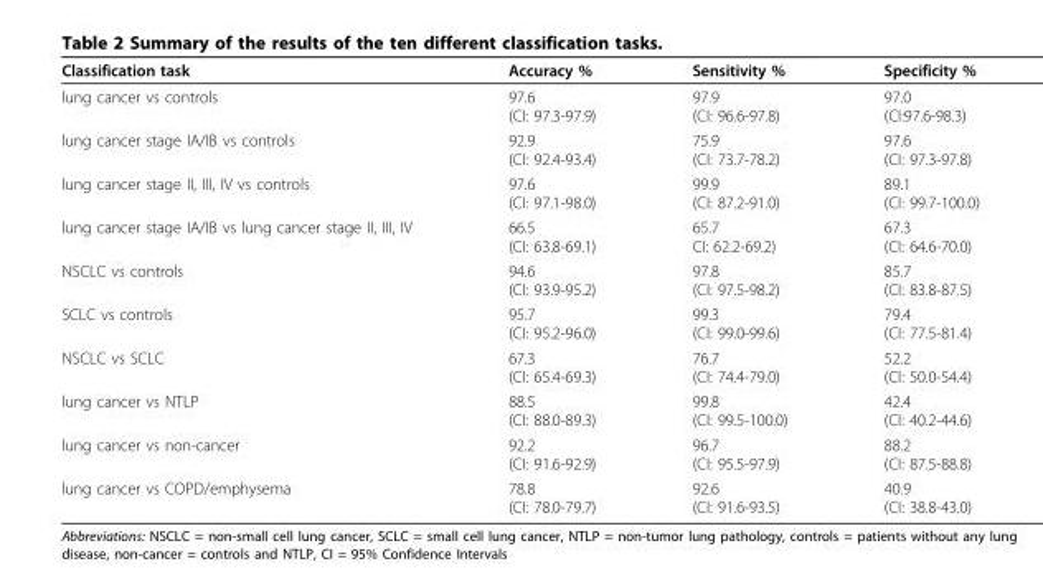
<table><thead><tr><td>Classification task</td><td>Accuracy %</td><td>Sensitivity %</td><td>Specificity %</td></tr></thead><tbody><tr><td>lung cancer vs controls</td><td>97.6 (CI: 97.3-97.9)</td><td>97.9 (CI: 96.6-97.8)</td><td>97.0 (CI:97.6-98.3)</td></tr><tr><td>lung cancer stage IA/IB vs controls</td><td>92.9 (CI: 92.4-93.4)</td><td>75.9 (CI: 73.7-78.2)</td><td>97.6 (CI: 97.3-97.8)</td></tr><tr><td>lung cancer stage II, III, IV vs controls</td><td>97.6 (CI: 97.1-98.0)</td><td>99.9 (CI: 87.2-91.0)</td><td>89.1 (CI: 99.7-100.0)</td></tr><tr><td>lung cancer stage IA/IB vs lung cancer stage II, III, IV</td><td>66.5 (CI: 63.8-69.1)</td><td>65.7 CI: 62.2-69.2)</td><td>67.3 (CI: 64.6-70.0)</td></tr><tr><td>NSCLC vs controls</td><td>94.6 (CI: 93.9-95.2)</td><td>97.8 (CI: 97.5-98.2)</td><td>85.7 (CI: 83.8-87.5)</td></tr><tr><td>SCLC vs controls</td><td>95.7 (CI: 95.2-96.0)</td><td>99.3 (CI: 99.0-99.6)</td><td>79.4 (CI: 77.5-81.4)</td></tr><tr><td>NSCLC vs SCLC</td><td>67.3 (CI: 65.4-69.3)</td><td>76.7 (CI: 74.4-79.0)</td><td>52.2 (CI: 50.0-54.4)</td></tr><tr><td>lung cancer vs NTLP</td><td>88.5 (CI: 88.0-89.3)</td><td>99.8 (CI: 99.5-100.0)</td><td>42.4 (CI: 40.2-44.6)</td></tr><tr><td>lung cancer vs non-cancer</td><td>92.2 (CI: 91.6-92.9)</td><td>96.7 (CI: 95.5-97.9)</td><td>88.2 (CI: 87.5-88.8)</td></tr><tr><td>lung cancer vs COPD/emphysema</td><td>78.8 (CI: 78.0-79.7)</td><td>92.6 (CI: 91.6-93.5)</td><td>40.9 (CI: 38.8-43.0)</td></tr></tbody></table>